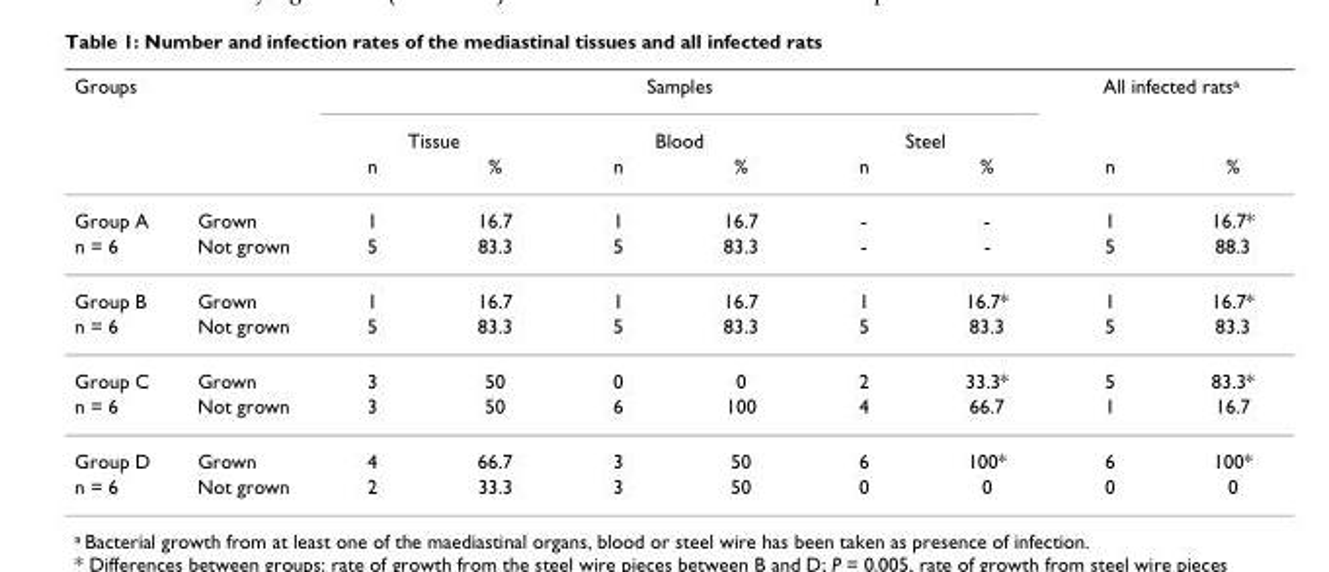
<table><thead><tr><td rowspan="3">Groups</td><td rowspan="3"></td><td colspan="6">Samples</td><td colspan="2">All infected rats<sup>a</sup></td></tr><tr><td colspan="2">Tissue</td><td colspan="2">Blood</td><td colspan="2">Steel</td><td rowspan="2">n</td><td rowspan="2">%</td></tr><tr><td>n</td><td>%</td><td>n</td><td>%</td><td>n</td><td>%</td></tr></thead><tbody><tr><td>Group A</td><td>Grown</td><td>1</td><td>16.7</td><td>1</td><td>16.7</td><td>-</td><td>-</td><td>1</td><td>16.7*</td></tr><tr><td>n = 6</td><td>Not grown</td><td>5</td><td>83.3</td><td>5</td><td>83.3</td><td>-</td><td>-</td><td>5</td><td>88.3</td></tr><tr><td>Group B</td><td>Grown</td><td>1</td><td>16.7</td><td>1</td><td>16.7</td><td>1</td><td>16.7*</td><td>1</td><td>16.7*</td></tr><tr><td>n = 6</td><td>Not grown</td><td>5</td><td>83.3</td><td>5</td><td>83.3</td><td>5</td><td>83.3</td><td>5</td><td>83.3</td></tr><tr><td>Group C</td><td>Grown</td><td>3</td><td>50</td><td>0</td><td>0</td><td>2</td><td>33.3*</td><td>5</td><td>83.3*</td></tr><tr><td>n = 6</td><td>Not grown</td><td>3</td><td>50</td><td>6</td><td>100</td><td>4</td><td>66.7</td><td>1</td><td>16.7</td></tr><tr><td>Group D</td><td>Grown</td><td>4</td><td>66.7</td><td>3</td><td>50</td><td>6</td><td>100*</td><td>6</td><td>100*</td></tr><tr><td>n = 6</td><td>Not grown</td><td>2</td><td>33.3</td><td>3</td><td>50</td><td>0</td><td>0</td><td>0</td><td>0</td></tr></tbody></table>